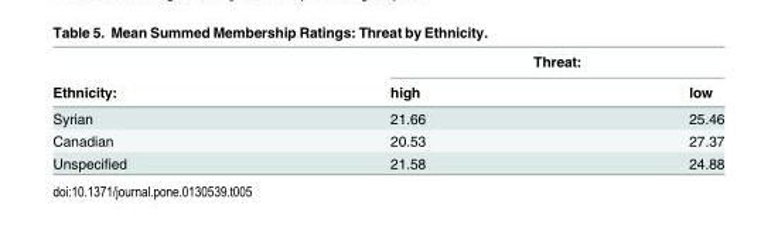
<table><thead><tr><td rowspan="2">Ethnicity:</td><td colspan="2">Threat:</td></tr><tr><td>high</td><td>low</td></tr></thead><tbody><tr><td>Syrian</td><td>21.66</td><td>25.46</td></tr><tr><td>Canadian</td><td>20.53</td><td>27.37</td></tr><tr><td>Unspecified</td><td>21.58</td><td>24.88</td></tr></tbody></table>